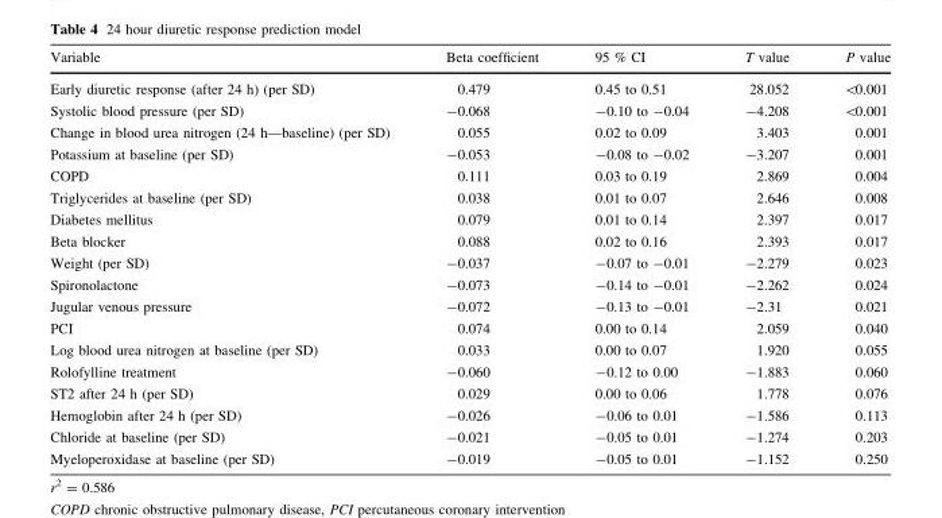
<table><thead><tr><td>Variable</td><td>Beta coefficient</td><td>95 % CI</td><td>T value</td><td>P value</td></tr></thead><tbody><tr><td>Early diuretic response (after 24 h) (per SD)</td><td>0.479</td><td>0.45 to 0.51</td><td>28.052</td><td>&lt;0.001</td></tr><tr><td>Systolic blood pressure (per SD)</td><td>-0.068</td><td>-0.10 to -0.04</td><td>-4.208</td><td>&lt;0.001</td></tr><tr><td>Change in blood urea nitrogen (24 h—baseline) (per SD)</td><td>0.055</td><td>0.02 to 0.09</td><td>3.403</td><td>0.001</td></tr><tr><td>Potassium at baseline (per SD)</td><td>-0.053</td><td>-0.08 to -0.02</td><td>-3.207</td><td>0.001</td></tr><tr><td>COPD</td><td>0.111</td><td>0.03 to 0.19</td><td>2.869</td><td>0.004</td></tr><tr><td>Triglycerides at baseline (per SD)</td><td>0.038</td><td>0.01 to 0.07</td><td>2.646</td><td>0.008</td></tr><tr><td>Diabetes mellitus</td><td>0.079</td><td>0.01 to 0.14</td><td>2.397</td><td>0.017</td></tr><tr><td>Beta blocker</td><td>0.088</td><td>0.02 to 0.16</td><td>2.393</td><td>0.017</td></tr><tr><td>Weight (per SD)</td><td>-0.037</td><td>-0.07 to -0.01</td><td>-2.279</td><td>0.023</td></tr><tr><td>Spironolactone</td><td>-0.073</td><td>-0.14 to -0.01</td><td>-2.262</td><td>0.024</td></tr><tr><td>Jugular venous pressure</td><td>-0.072</td><td>-0.13 to -0.01</td><td>-2.31</td><td>0.021</td></tr><tr><td>PCI</td><td>0.074</td><td>0.00 to 0.14</td><td>2.059</td><td>0.040</td></tr><tr><td>Log blood urea nitrogen at baseline (per SD)</td><td>0.033</td><td>0.00 to 0.07</td><td>1.920</td><td>0.055</td></tr><tr><td>Rolofylline treatment</td><td>-0.060</td><td>-0.12 to 0.00</td><td>-1.883</td><td>0.060</td></tr><tr><td>ST2 after 24 h (per SD)</td><td>0.029</td><td>0.00 to 0.06</td><td>1.778</td><td>0.076</td></tr><tr><td>Hemoglobin after 24 h (per SD)</td><td>-0.026</td><td>-0.06 to 0.01</td><td>-1.586</td><td>0.113</td></tr><tr><td>Chloride at baseline (per SD)</td><td>-0.021</td><td>-0.05 to 0.01</td><td>-1.274</td><td>0.203</td></tr><tr><td>Myeloperoxidase at baseline (per SD)</td><td>-0.019</td><td>-0.05 to 0.01</td><td>-1.152</td><td>0.250</td></tr></tbody></table>